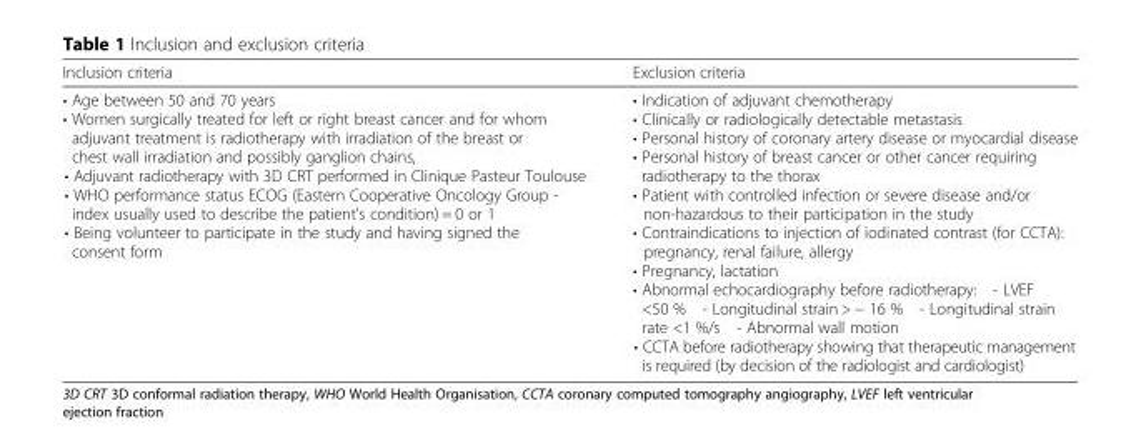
<table><thead><tr><td>Inclusion criteria</td><td>Exclusion criteria</td></tr></thead><tbody><tr><td>• Age between 50 and 70 years • Women surgically treated for left or right breast cancer and for whom adjuvant treatment is radiotherapy with irradiation of the breast or chest wall irradiation and possibly ganglion chains, • Adjuvant radiotherapy with 3D CRT performed in Clinique Pasteur Toulouse • WHO performance status ECOG (Eastern Cooperative Oncology Group - index usually used to describe the patient&#x27;s condition) = 0 or 1 • Being volunteer to participate in the study and having signed the consent form</td><td>• Indication of adjuvant chemotherapy • Clinically or radiologically detectable metastasis • Personal history of coronary artery disease or myocardial disease • Personal history of breast cancer or other cancer requiring radiotherapy to the thorax • Patient with controlled infection or severe disease and/or non-hazardous to their participation in the study • Contraindications to injection of iodinated contrast (for CCTA): pregnancy, renal failure, allergy • Pregnancy, lactation • Abnormal echocardiography before radiotherapy: - LVEF &lt;50 % - Longitudinal strain &gt; − 16 % - Longitudinal strain rate &lt;1 %/s - Abnormal wall motion • CCTA before radiotherapy showing that therapeutic management is required (by decision of the radiologist and cardiologist)</td></tr></tbody></table>